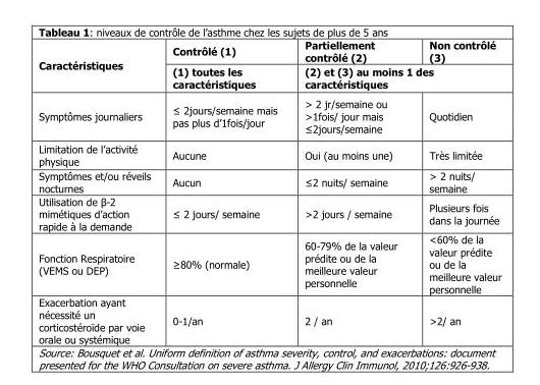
<table><thead><tr><td rowspan="2">Caractéristiques</td><td rowspan="2">Contrôlé (1) (1) toutes les caractéristiques</td><td>Partiellement contrôlé (2)</td><td>Non contrôlé (3)</td></tr><tr><td colspan="2">(2) et (3) au moins 1 des caractéristiques</td></tr></thead><tbody><tr><td>Symptômes journaliers</td><td>≤ 2jours/semaine mais pas plus d’1fois/jour</td><td>&gt; 2 jr/semaine ou &gt;1fois/ jour mais ≤2jours/semaine</td><td>Quotidien</td></tr><tr><td>Limitation de l’activité physique</td><td>Aucune</td><td>Oui (au moins une)</td><td>Très limitée</td></tr><tr><td>Symptômes et/ou réveils nocturnes</td><td>Aucun</td><td>≤2 nuits/ semaine</td><td>&gt; 2 nuits/ semaine</td></tr><tr><td>Utilisation de β-2 mimétiques d’action rapide à la demande</td><td>≤ 2 jours/ semaine</td><td>&gt;2 jours / semaine</td><td>Plusieurs fois dans la journée</td></tr><tr><td>Fonction Respiratoire (VEMS ou DEP)</td><td>≥80% (normale)</td><td>60-79% de la valeur prédite ou de la meilleure valeur personnelle</td><td>&lt;60% de la valeur prédite ou de la meilleure valeur personnelle</td></tr><tr><td>Exacerbation ayant nécessité un corticostéroïde par voie orale ou systémique</td><td>0-1/an</td><td>2 / an</td><td>&gt;2/ an</td></tr></tbody></table>